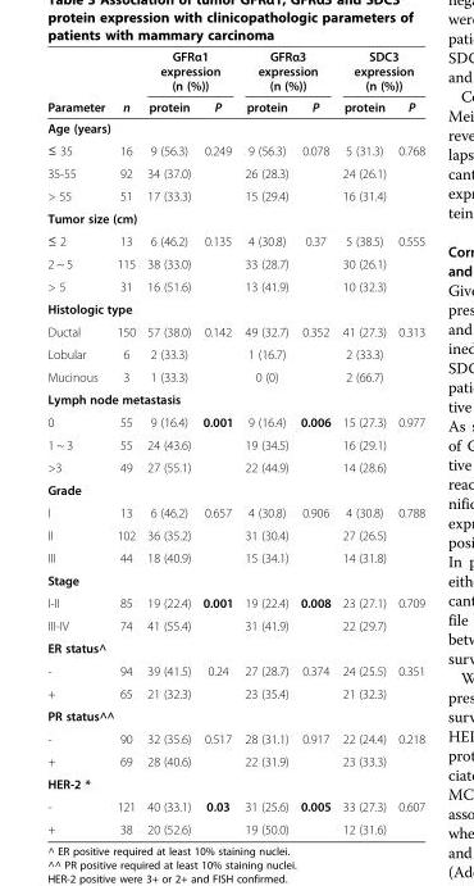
<table><thead><tr><td rowspan="2">Parameter</td><td rowspan="2">n</td><td colspan="2">GFRα1 expression (n (%))</td><td colspan="2">GFRα3 expression (n (%))</td><td colspan="2">SDC3 expression (n (%))</td></tr><tr><td>protein</td><td>P</td><td>protein</td><td>P</td><td>protein</td><td>P</td></tr></thead><tbody><tr><td colspan="8">Age (years)</td></tr><tr><td>≤ 35</td><td>16</td><td>9 (56.3)</td><td>0.249</td><td>9 (56.3)</td><td>0.078</td><td>5 (31.3)</td><td>0.768</td></tr><tr><td>35-55</td><td>92</td><td>34 (37.0)</td><td></td><td>26 (28.3)</td><td></td><td>24 (26.1)</td><td></td></tr><tr><td>&gt; 55</td><td>51</td><td>17 (33.3)</td><td></td><td>15 (29.4)</td><td></td><td>16 (31.4)</td><td></td></tr><tr><td colspan="8">Tumor size (cm)</td></tr><tr><td>≤ 2</td><td>13</td><td>6 (46.2)</td><td>0.135</td><td>4 (30.8)</td><td>0.37</td><td>5 (38.5)</td><td>0.555</td></tr><tr><td>2 ~ 5</td><td>115</td><td>38 (33.0)</td><td></td><td>33 (28.7)</td><td></td><td>30 (26.1)</td><td></td></tr><tr><td>&gt; 5</td><td>31</td><td>16 (51.6)</td><td></td><td>13 (41.9)</td><td></td><td>10 (32.3)</td><td></td></tr><tr><td colspan="8">Histologic type</td></tr><tr><td>Ductal</td><td>150</td><td>57 (38.0)</td><td>0.142</td><td>49 (32.7)</td><td>0.352</td><td>41 (27.3)</td><td>0.313</td></tr><tr><td>Lobular</td><td>6</td><td>2 (33.3)</td><td></td><td>1 (16.7)</td><td></td><td>2 (33.3)</td><td></td></tr><tr><td>Mucinous</td><td>3</td><td>1 (33.3)</td><td></td><td>0 (0)</td><td></td><td>2 (66.7)</td><td></td></tr><tr><td colspan="8">Lymph node metastasis</td></tr><tr><td>0</td><td>55</td><td>9 (16.4)</td><td>0.001</td><td>9 (16.4)</td><td>0.006</td><td>15 (27.3)</td><td>0.977</td></tr><tr><td>1 ~ 3</td><td>55</td><td>24 (43.6)</td><td></td><td>19 (34.5)</td><td></td><td>16 (29.1)</td><td></td></tr><tr><td>&gt;3</td><td>49</td><td>27 (55.1)</td><td></td><td>22 (44.9)</td><td></td><td>14 (28.6)</td><td></td></tr><tr><td colspan="8">Grade</td></tr><tr><td>I</td><td>13</td><td>6 (46.2)</td><td>0.657</td><td>4 (30.8)</td><td>0.906</td><td>4 (30.8)</td><td>0.788</td></tr><tr><td>II</td><td>102</td><td>36 (35.2)</td><td></td><td>31 (30.4)</td><td></td><td>27 (26.5)</td><td></td></tr><tr><td>III</td><td>44</td><td>18 (40.9)</td><td></td><td>15 (34.1)</td><td></td><td>14 (31.8)</td><td></td></tr><tr><td colspan="8">Stage</td></tr><tr><td>I-II</td><td>85</td><td>19 (22.4)</td><td>0.001</td><td>19 (22.4)</td><td>0.008</td><td>23 (27.1)</td><td>0.709</td></tr><tr><td>III-IV</td><td>74</td><td>41 (55.4)</td><td></td><td>31 (41.9)</td><td></td><td>22 (29.7)</td><td></td></tr><tr><td colspan="8">ER status^</td></tr><tr><td>-</td><td>94</td><td>39 (41.5)</td><td>0.24</td><td>27 (28.7)</td><td>0.374</td><td>24 (25.5)</td><td>0.351</td></tr><tr><td>+</td><td>65</td><td>21 (32.3)</td><td></td><td>23 (35.4)</td><td></td><td>21 (32.3)</td><td></td></tr><tr><td colspan="8">PR status^^</td></tr><tr><td>-</td><td>90</td><td>32 (35.6)</td><td>0.517</td><td>28 (31.1)</td><td>0.917</td><td>22 (24.4)</td><td>0.218</td></tr><tr><td>+</td><td>69</td><td>28 (40.6)</td><td></td><td>22 (31.9)</td><td></td><td>23 (33.3)</td><td></td></tr><tr><td colspan="8">HER-2 *</td></tr><tr><td>-</td><td>121</td><td>40 (33.1)</td><td>0.03</td><td>31 (25.6)</td><td>0.005</td><td>33 (27.3)</td><td>0.607</td></tr><tr><td>+</td><td>38</td><td>20 (52.6)</td><td></td><td>19 (50.0)</td><td></td><td>12 (31.6)</td><td></td></tr></tbody></table>